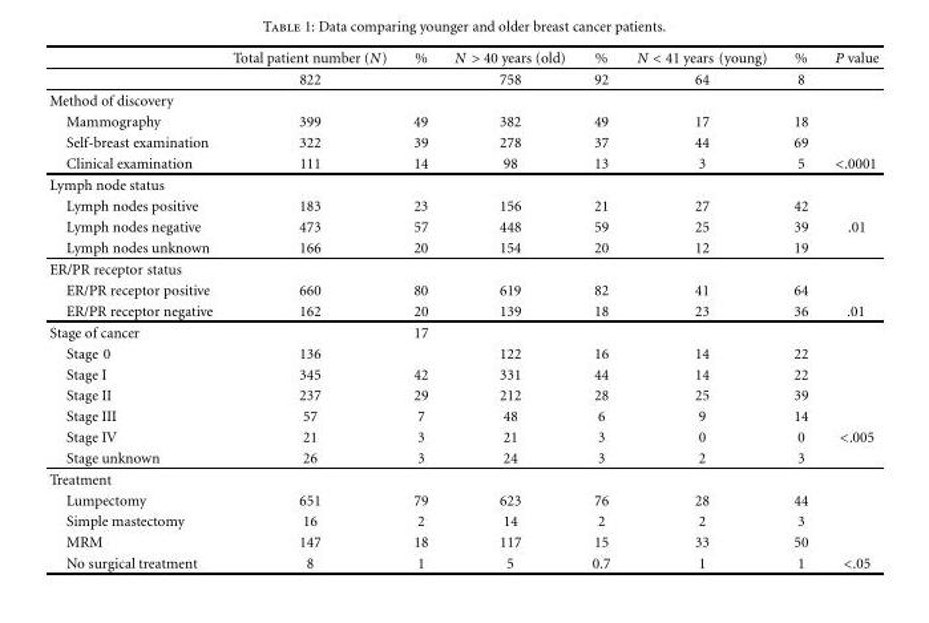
<table><thead><tr><td></td><td>Total patient number (N)</td><td>%</td><td>N &gt; 40 years (old)</td><td>%</td><td>N &lt; 41 years (young)</td><td>%</td><td>P value</td></tr></thead><tbody><tr><td></td><td>822</td><td></td><td>758</td><td>92</td><td>64</td><td>8</td><td></td></tr><tr><td colspan="8">Method of discovery</td></tr><tr><td>Mammography</td><td>399</td><td>49</td><td>382</td><td>49</td><td>17</td><td>18</td><td></td></tr><tr><td>Self-breast examination</td><td>322</td><td>39</td><td>278</td><td>37</td><td>44</td><td>69</td><td></td></tr><tr><td>Clinical examination</td><td>111</td><td>14</td><td>98</td><td>13</td><td>3</td><td>5</td><td>&lt;.0001</td></tr><tr><td colspan="8">Lymph node status</td></tr><tr><td>Lymph nodes positive</td><td>183</td><td>23</td><td>156</td><td>21</td><td>27</td><td>42</td><td></td></tr><tr><td>Lymph nodes negative</td><td>473</td><td>57</td><td>448</td><td>59</td><td>25</td><td>39</td><td>.01</td></tr><tr><td>Lymph nodes unknown</td><td>166</td><td>20</td><td>154</td><td>20</td><td>12</td><td>19</td><td></td></tr><tr><td colspan="8">ER/PR receptor status</td></tr><tr><td>ER/PR receptor positive</td><td>660</td><td>80</td><td>619</td><td>82</td><td>41</td><td>64</td><td></td></tr><tr><td>ER/PR receptor negative</td><td>162</td><td>20</td><td>139</td><td>18</td><td>23</td><td>36</td><td>.01</td></tr><tr><td>Stage of cancer</td><td></td><td>17</td><td></td><td></td><td></td><td></td><td></td></tr><tr><td>Stage 0</td><td>136</td><td></td><td>122</td><td>16</td><td>14</td><td>22</td><td></td></tr><tr><td>Stage I</td><td>345</td><td>42</td><td>331</td><td>44</td><td>14</td><td>22</td><td></td></tr><tr><td>Stage II</td><td>237</td><td>29</td><td>212</td><td>28</td><td>25</td><td>39</td><td></td></tr><tr><td>Stage III</td><td>57</td><td>7</td><td>48</td><td>6</td><td>9</td><td>14</td><td></td></tr><tr><td>Stage IV</td><td>21</td><td>3</td><td>21</td><td>3</td><td>0</td><td>0</td><td>&lt;.005</td></tr><tr><td>Stage unknown</td><td>26</td><td>3</td><td>24</td><td>3</td><td>2</td><td>3</td><td></td></tr><tr><td colspan="8">Treatment</td></tr><tr><td>Lumpectomy</td><td>651</td><td>79</td><td>623</td><td>76</td><td>28</td><td>44</td><td></td></tr><tr><td>Simple mastectomy</td><td>16</td><td>2</td><td>14</td><td>2</td><td>2</td><td>3</td><td></td></tr><tr><td>MRM</td><td>147</td><td>18</td><td>117</td><td>15</td><td>33</td><td>50</td><td></td></tr><tr><td>No surgical treatment</td><td>8</td><td>1</td><td>5</td><td>0.7</td><td>1</td><td>1</td><td>&lt;.05</td></tr></tbody></table>